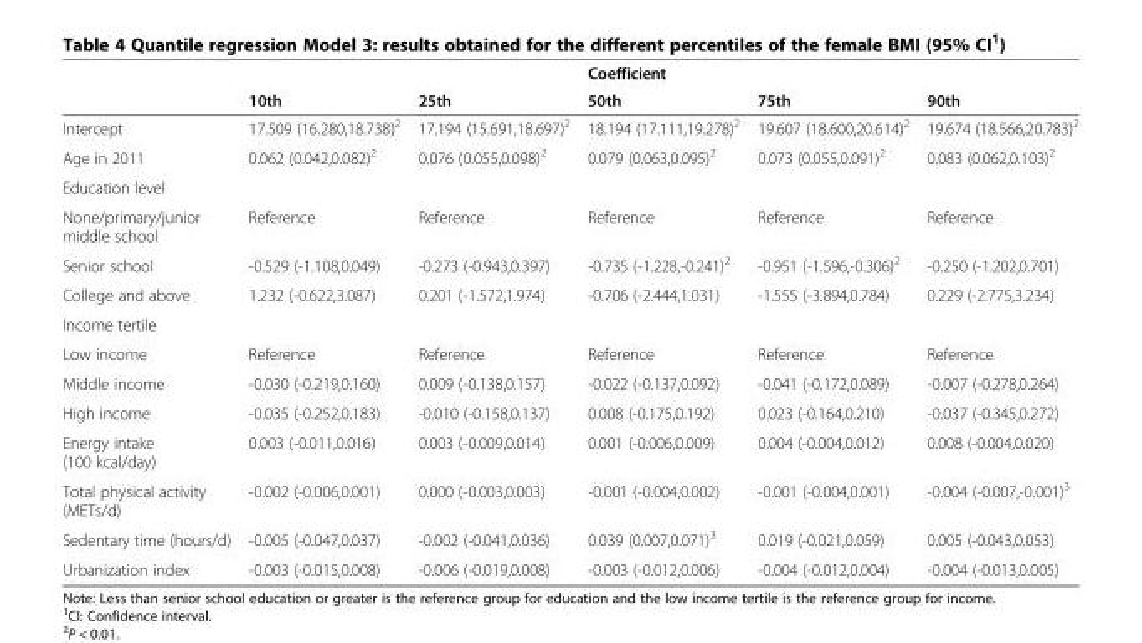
<table><thead><tr><td rowspan="2"></td><td rowspan="2">10th</td><td rowspan="2">25th</td><td rowspan="2">Coefficient 50th</td><td rowspan="2">75th</td><td rowspan="2">90th</td></tr><tr></tr></thead><tbody><tr><td>Intercept</td><td>17.509 (16.280,18.738)<sup>2</sup></td><td>17.194 (15.691,18.697)<sup>2</sup></td><td>18.194 (17.111,19.278)<sup>2</sup></td><td>19.607 (18.600,20.614)<sup>2</sup></td><td>19.674 (18.566,20.783)<sup>2</sup></td></tr><tr><td>Age in 2011</td><td>0.062 (0.042,0.082)<sup>2</sup></td><td>0.076 (0.055,0.098)<sup>2</sup></td><td>0.079 (0.063,0.095)<sup>2</sup></td><td>0.073 (0.055,0.091)<sup>2</sup></td><td>0.083 (0.062,0.103)<sup>2</sup></td></tr><tr><td colspan="6">Education level</td></tr><tr><td>None/primary/junior middle school</td><td>Reference</td><td>Reference</td><td>Reference</td><td>Reference</td><td>Reference</td></tr><tr><td>Senior school</td><td>-0.529 (-1.108,0.049)</td><td>-0.273 (-0.943,0.397)</td><td>-0.735 (-1.228,-0.241)<sup>2</sup></td><td>-0.951 (-1.596,-0.306)<sup>2</sup></td><td>-0.250 (-1.202,0.701)</td></tr><tr><td>College and above</td><td>1.232 (-0.622,3.087)</td><td>0.201 (-1.572,1.974)</td><td>-0.706 (-2.444,1.031)</td><td>-1.555 (-3.894,0.784)</td><td>0.229 (-2.775,3.234)</td></tr><tr><td colspan="6">Income tertile</td></tr><tr><td>Low income</td><td>Reference</td><td>Reference</td><td>Reference</td><td>Reference</td><td>Reference</td></tr><tr><td>Middle income</td><td>-0.030 (-0.219,0.160)</td><td>0.009 (-0.138,0.157)</td><td>-0.022 (-0.137,0.092)</td><td>-0.041 (-0.172,0.089)</td><td>-0.007 (-0.278,0.264)</td></tr><tr><td>High income</td><td>-0.035 (-0.252,0.183)</td><td>-0.010 (-0.158,0.137)</td><td>0.008 (-0.175,0.192)</td><td>0.023 (-0.164,0.210)</td><td>-0.037 (-0.345,0.272)</td></tr><tr><td>Energy intake (100 kcal/day)</td><td>0.003 (-0.011,0.016)</td><td>0.003 (-0.009,0.014)</td><td>0.001 (-0.006,0.009)</td><td>0.004 (-0.004,0.012)</td><td>0.008 (-0.004,0.020)</td></tr><tr><td>Total physical activity (METs/d)</td><td>-0.002 (-0.006,0.001)</td><td>0.000 (-0.003,0.003)</td><td>-0.001 (-0.004,0.002)</td><td>-0.001 (-0.004,0.001)</td><td>-0.004 (-0.007,-0.001)<sup>3</sup></td></tr><tr><td>Sedentary time (hours/d)</td><td>-0.005 (-0.047,0.037)</td><td>-0.002 (-0.041,0.036)</td><td>0.039 (0.007,0.071)<sup>3</sup></td><td>0.019 (-0.021,0.059)</td><td>0.005 (-0.043,0.053)</td></tr><tr><td>Urbanization index</td><td>-0.003 (-0.015,0.008)</td><td>-0.006 (-0.019,0.008)</td><td>-0.003 (-0.012,0.006)</td><td>-0.004 (-0.012,0.004)</td><td>-0.004 (-0.013,0.005)</td></tr></tbody></table>